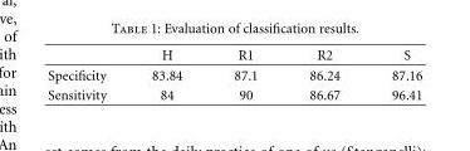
<table><thead><tr><td></td><td>H</td><td>R1</td><td>R2</td><td>S</td></tr></thead><tbody><tr><td>Specificity</td><td>83.84</td><td>87.1</td><td>86.24</td><td>87.16</td></tr><tr><td>Sensitivity</td><td>84</td><td>90</td><td>86.67</td><td>96.41</td></tr></tbody></table>